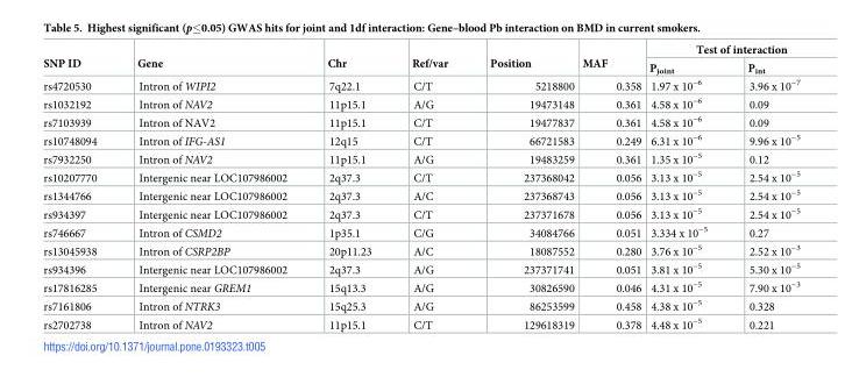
<table><thead><tr><td rowspan="2">SNP ID</td><td rowspan="2">Gene</td><td rowspan="2">Chr</td><td rowspan="2">Ref/var</td><td rowspan="2">Position</td><td rowspan="2">MAF</td><td colspan="2">Test of interaction</td></tr><tr><td>P<sub>joint</sub></td><td>P<sub>int</sub></td></tr></thead><tbody><tr><td>rs4720530</td><td>Intron of WIPI2</td><td>7q22.1</td><td>C/T</td><td>5218800</td><td>0.358</td><td>1.97 x 10<sup>−6</sup></td><td>3.96 x 10<sup>−7</sup></td></tr><tr><td>rs1032192</td><td>Intron of NAV2</td><td>11p15.1</td><td>A/G</td><td>19473148</td><td>0.361</td><td>4.58 x 10<sup>−6</sup></td><td>0.09</td></tr><tr><td>rs7103939</td><td>Intron of NAV2</td><td>11p15.1</td><td>C/T</td><td>19477837</td><td>0.361</td><td>4.58 x 10<sup>−6</sup></td><td>0.09</td></tr><tr><td>rs10748094</td><td>Intron of IFG-AS1</td><td>12q15</td><td>C/T</td><td>66721583</td><td>0.249</td><td>6.31 x 10<sup>−6</sup></td><td>9.96 x 10<sup>−5</sup></td></tr><tr><td>rs7932250</td><td>Intron of NAV2</td><td>11p15.1</td><td>A/G</td><td>19483259</td><td>0.361</td><td>1.35 x 10<sup>−5</sup></td><td>0.12</td></tr><tr><td>rs10207770</td><td>Intergenic near LOC107986002</td><td>2q37.3</td><td>C/T</td><td>237368042</td><td>0.056</td><td>3.13 x 10<sup>−5</sup></td><td>2.54 x 10<sup>−5</sup></td></tr><tr><td>rs1344766</td><td>Intergenic near LOC107986002</td><td>2q37.3</td><td>A/C</td><td>237368743</td><td>0.056</td><td>3.13 x 10<sup>−5</sup></td><td>2.54 x 10<sup>−5</sup></td></tr><tr><td>rs934397</td><td>Intergenic near LOC107986002</td><td>2q37.3</td><td>C/T</td><td>237371678</td><td>0.056</td><td>3.13 x 10<sup>−5</sup></td><td>2.54 x 10<sup>−5</sup></td></tr><tr><td>rs746667</td><td>Intron of CSMD2</td><td>1p35.1</td><td>C/G</td><td>34084766</td><td>0.051</td><td>3.334 x 10<sup>−5</sup></td><td>0.27</td></tr><tr><td>rs13045938</td><td>Intron of CSRP2BP</td><td>20p11.23</td><td>A/C</td><td>18087552</td><td>0.280</td><td>3.76 x 10<sup>−5</sup></td><td>2.52 x 10<sup>−3</sup></td></tr><tr><td>rs934396</td><td>Intergenic near LOC107986002</td><td>2q37.3</td><td>A/G</td><td>237371741</td><td>0.051</td><td>3.81 x 10<sup>−5</sup></td><td>5.30 x 10<sup>−5</sup></td></tr><tr><td>rs17816285</td><td>Intergenic near GREM1</td><td>15q13.3</td><td>A/G</td><td>30826590</td><td>0.046</td><td>4.31 x 10<sup>−5</sup></td><td>7.90 x 10<sup>−3</sup></td></tr><tr><td>rs7161806</td><td>Intron of NTRK3</td><td>15q25.3</td><td>A/G</td><td>86253599</td><td>0.458</td><td>4.38 x 10<sup>−5</sup></td><td>0.328</td></tr><tr><td>rs2702738</td><td>Intron of NAV2</td><td>11p15.1</td><td>C/T</td><td>129618319</td><td>0.378</td><td>4.48 x 10<sup>−5</sup></td><td>0.221</td></tr></tbody></table>